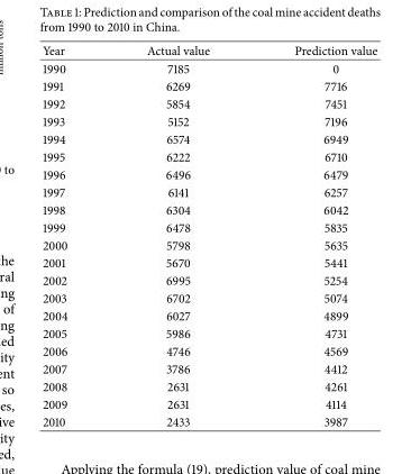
<table><thead><tr><td>Year</td><td>Actual value</td><td>Prediction value</td></tr></thead><tbody><tr><td>1990</td><td>7185</td><td>0</td></tr><tr><td>1991</td><td>6269</td><td>7716</td></tr><tr><td>1992</td><td>5854</td><td>7451</td></tr><tr><td>1993</td><td>5152</td><td>7196</td></tr><tr><td>1994</td><td>6574</td><td>6949</td></tr><tr><td>1995</td><td>6222</td><td>6710</td></tr><tr><td>1996</td><td>6496</td><td>6479</td></tr><tr><td>1997</td><td>6141</td><td>6257</td></tr><tr><td>1998</td><td>6304</td><td>6042</td></tr><tr><td>1999</td><td>6478</td><td>5835</td></tr><tr><td>2000</td><td>5798</td><td>5635</td></tr><tr><td>2001</td><td>5670</td><td>5441</td></tr><tr><td>2002</td><td>6995</td><td>5254</td></tr><tr><td>2003</td><td>6702</td><td>5074</td></tr><tr><td>2004</td><td>6027</td><td>4899</td></tr><tr><td>2005</td><td>5986</td><td>4731</td></tr><tr><td>2006</td><td>4746</td><td>4569</td></tr><tr><td>2007</td><td>3786</td><td>4412</td></tr><tr><td>2008</td><td>2631</td><td>4261</td></tr><tr><td>2009</td><td>2631</td><td>4114</td></tr><tr><td>2010</td><td>2433</td><td>3987</td></tr></tbody></table>